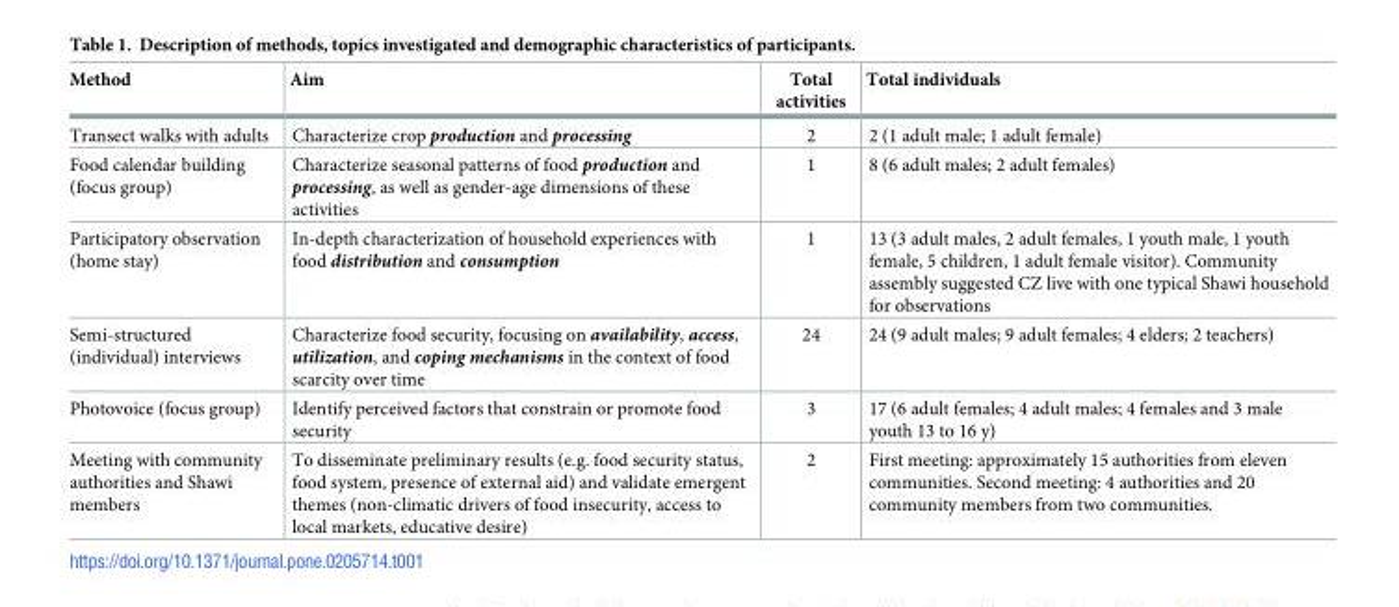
<table><thead><tr><td>Method</td><td>Aim</td><td>Total activities</td><td>Total individuals</td></tr></thead><tbody><tr><td>Transect walks with adults</td><td>Characterize crop production and processing</td><td>2</td><td>2 (1 adult male; 1 adult female)</td></tr><tr><td>Food calendar building (focus group)</td><td>Characterize seasonal patterns of food production and processing, as well as gender-age dimensions of these activities</td><td>1</td><td>8 (6 adult males; 2 adult females)</td></tr><tr><td>Participatory observation (home stay)</td><td>In-depth characterization of household experiences with food distribution and consumption</td><td>1</td><td>13 (3 adult males, 2 adult females, 1 youth male, 1 youth female, 5 children, 1 adult female visitor). Community assembly suggested CZ live with one typical Shawi household for observations</td></tr><tr><td>Semi-structured (individual) interviews</td><td>Characterize food security, focusing on availability, access, utilization, and coping mechanisms in the context of food scarcity over time</td><td>24</td><td>24 (9 adult males; 9 adult females; 4 elders; 2 teachers)</td></tr><tr><td>Photovoice (focus group)</td><td>Identify perceived factors that constrain or promote food security</td><td>3</td><td>17 (6 adult females; 4 adult males; 4 females and 3 male youth 13 to 16 y)</td></tr><tr><td>Meeting with community authorities and Shawi members</td><td>To disseminate preliminary results (e.g. food security status, food system, presence of external aid) and validate emergent themes (non-climatic drivers of food insecurity, access to local markets, educative desire)</td><td>2</td><td>First meeting: approximately 15 authorities from eleven communities. Second meeting: 4 authorities and 20 community members from two communities.</td></tr></tbody></table>